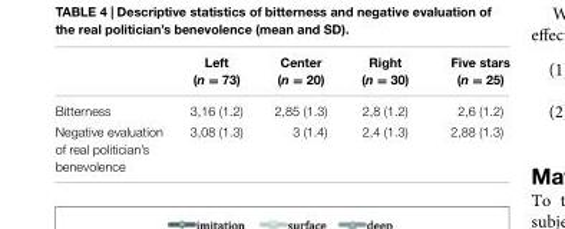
<table><thead><tr><td></td><td>Left (n = 73)</td><td>Center (n = 20)</td><td>Right (n = 30)</td><td>Five stars (n = 25)</td></tr></thead><tbody><tr><td>Bitterness</td><td>3,16 (1.2)</td><td>2,85 (1.3)</td><td>2,8 (1.2)</td><td>2,6 (1.2)</td></tr><tr><td>Negative evaluation of real politician’s benevolence</td><td>3,08 (1.3)</td><td>3 (1.4)</td><td>2,4 (1.3)</td><td>2,88 (1.3)</td></tr></tbody></table>